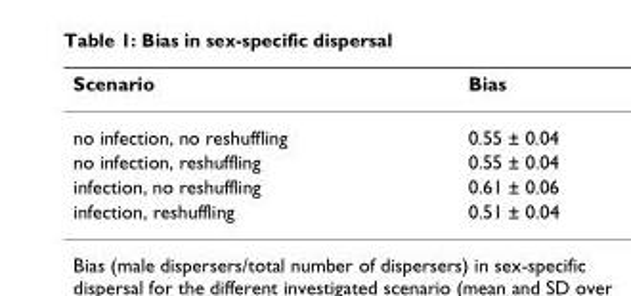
<table><thead><tr><td>Scenario</td><td>Bias</td></tr></thead><tbody><tr><td>no infection, no reshuffling</td><td>0.55 ± 0.04</td></tr><tr><td>no infection, reshuffling</td><td>0.55 ± 0.04</td></tr><tr><td>infection, no reshuffling</td><td>0.61 ± 0.06</td></tr><tr><td>infection, reshuffling</td><td>0.51 ± 0.04</td></tr></tbody></table>